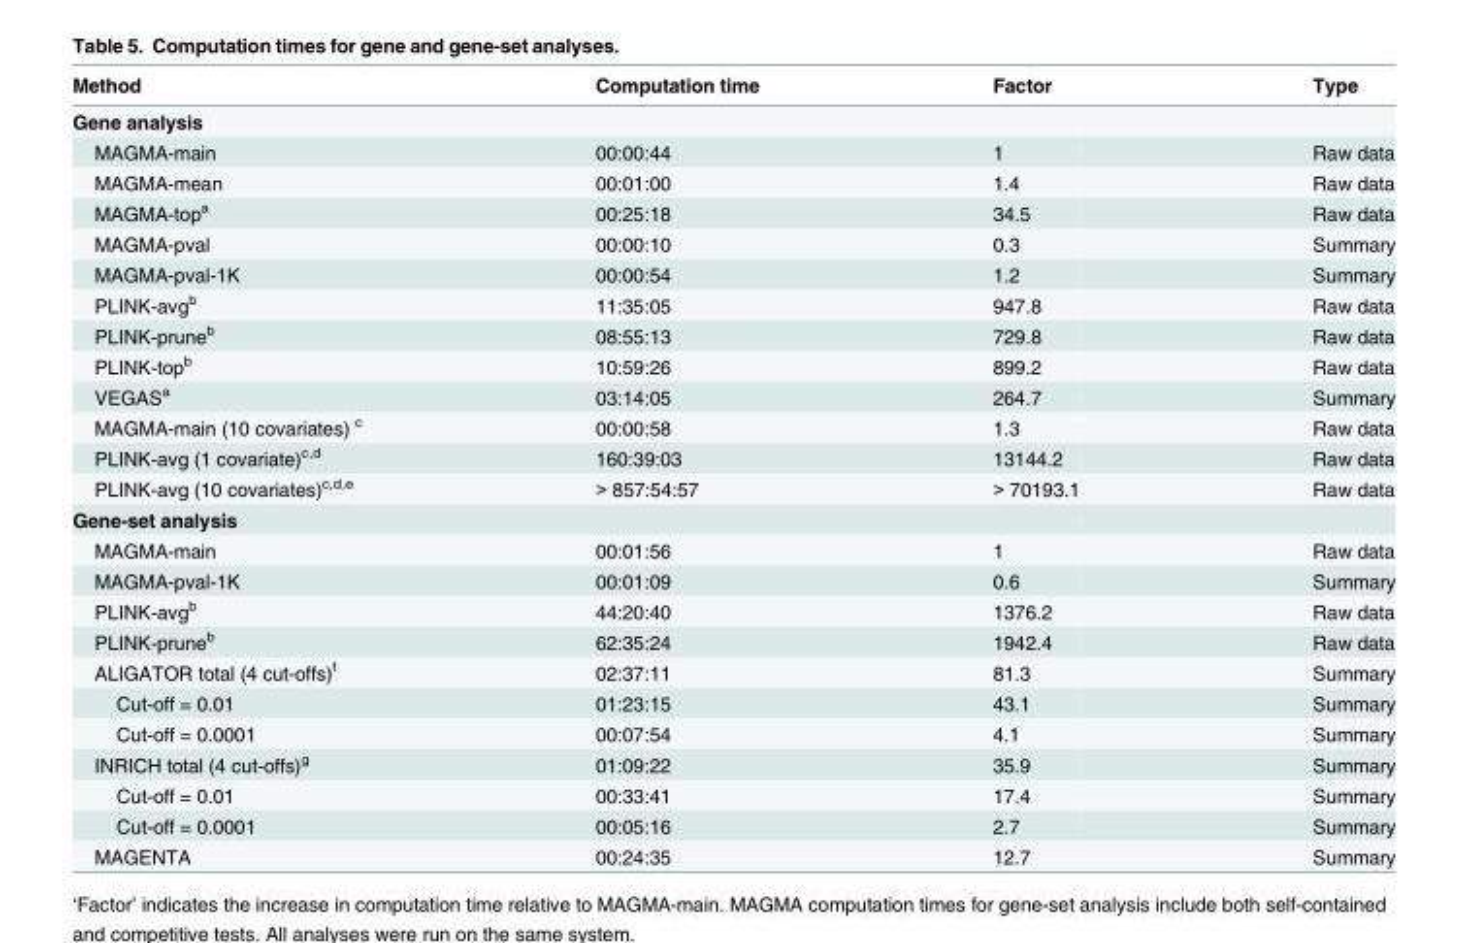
<table><thead><tr><td>Method</td><td>Computation time</td><td>Factor</td><td>Type</td></tr></thead><tbody><tr><td colspan="4">Gene analysis</td></tr><tr><td>MAGMA-main</td><td>00:00:44</td><td>1</td><td>Raw data</td></tr><tr><td>MAGMA-mean</td><td>00:01:00</td><td>1.4</td><td>Raw data</td></tr><tr><td>MAGMA-top<sup>a</sup></td><td>00:25:18</td><td>34.5</td><td>Raw data</td></tr><tr><td>MAGMA-pval</td><td>00:00:10</td><td>0.3</td><td>Summary</td></tr><tr><td>MAGMA-pval-1K</td><td>00:00:54</td><td>1.2</td><td>Summary</td></tr><tr><td>PLINK-avg<sup>b</sup></td><td>11:35:05</td><td>947.8</td><td>Raw data</td></tr><tr><td>PLINK-prune<sup>b</sup></td><td>08:55:13</td><td>729.8</td><td>Raw data</td></tr><tr><td>PLINK-top<sup>b</sup></td><td>10:59:26</td><td>899.2</td><td>Raw data</td></tr><tr><td>VEGAS<sup>a</sup></td><td>03:14:05</td><td>264.7</td><td>Summary</td></tr><tr><td>MAGMA-main (10 covariates) <sup>c</sup></td><td>00:00:58</td><td>1.3</td><td>Raw data</td></tr><tr><td>PLINK-avg (1 covariate)<sup>c,d</sup></td><td>160:39:03</td><td>13144.2</td><td>Raw data</td></tr><tr><td>PLINK-avg (10 covariates)<sup>c,d,e</sup></td><td>&gt; 857:54:57</td><td>&gt; 70193.1</td><td>Raw data</td></tr><tr><td colspan="4">Gene-set analysis</td></tr><tr><td>MAGMA-main</td><td>00:01:56</td><td>1</td><td>Raw data</td></tr><tr><td>MAGMA-pval-1K</td><td>00:01:09</td><td>0.6</td><td>Summary</td></tr><tr><td>PLINK-avg<sup>b</sup></td><td>44:20:40</td><td>1376.2</td><td>Raw data</td></tr><tr><td>PLINK-prune<sup>b</sup></td><td>62:35:24</td><td>1942.4</td><td>Raw data</td></tr><tr><td>ALIGATOR total (4 cut-offs)<sup>f</sup></td><td>02:37:11</td><td>81.3</td><td>Summary</td></tr><tr><td>Cut-off = 0.01</td><td>01:23:15</td><td>43.1</td><td>Summary</td></tr><tr><td>Cut-off = 0.0001</td><td>00:07:54</td><td>4.1</td><td>Summary</td></tr><tr><td>INRICH total (4 cut-offs)<sup>g</sup></td><td>01:09:22</td><td>35.9</td><td>Summary</td></tr><tr><td>Cut-off = 0.01</td><td>00:33:41</td><td>17.4</td><td>Summary</td></tr><tr><td>Cut-off = 0.0001</td><td>00:05:16</td><td>2.7</td><td>Summary</td></tr><tr><td>MAGENTA</td><td>00:24:35</td><td>12.7</td><td>Summary</td></tr></tbody></table>